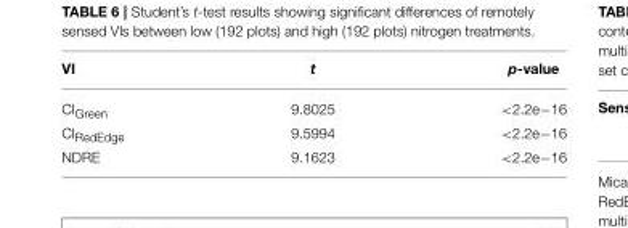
<table><thead><tr><td>VI</td><td>t</td><td>p-value</td></tr></thead><tbody><tr><td>CI<sub>Green</sub></td><td>9.8025</td><td>&lt;2.2e−16</td></tr><tr><td>CI<sub>RedEdge</sub></td><td>9.5994</td><td>&lt;2.2e−16</td></tr><tr><td>NDRE</td><td>9.1623</td><td>&lt;2.2e−16</td></tr></tbody></table>